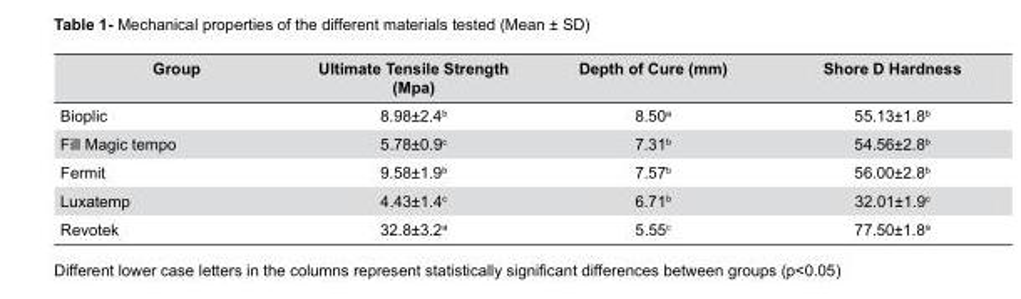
<table><thead><tr><td>Group</td><td>Ultimate Tensile Strength (Mpa)</td><td>Depth of Cure (mm)</td><td>Shore D Hardness</td></tr></thead><tbody><tr><td>Bioplic</td><td>8.98±2.4<sup>b</sup></td><td>8.50<sup>a</sup></td><td>55.13±1.8<sup>b</sup></td></tr><tr><td>Fill Magic tempo</td><td>5.78±0.9<sup>c</sup></td><td>7.31<sup>b</sup></td><td>54.56±2.8<sup>b</sup></td></tr><tr><td>Fermit</td><td>9.58±1.9<sup>b</sup></td><td>7.57<sup>b</sup></td><td>56.00±2.8<sup>b</sup></td></tr><tr><td>Luxatemp</td><td>4.43±1.4<sup>c</sup></td><td>6.71<sup>b</sup></td><td>32.01±1.9<sup>c</sup></td></tr><tr><td>Revotek</td><td>32.8±3.2<sup>a</sup></td><td>5.55<sup>c</sup></td><td>77.50±1.8<sup>a</sup></td></tr></tbody></table>